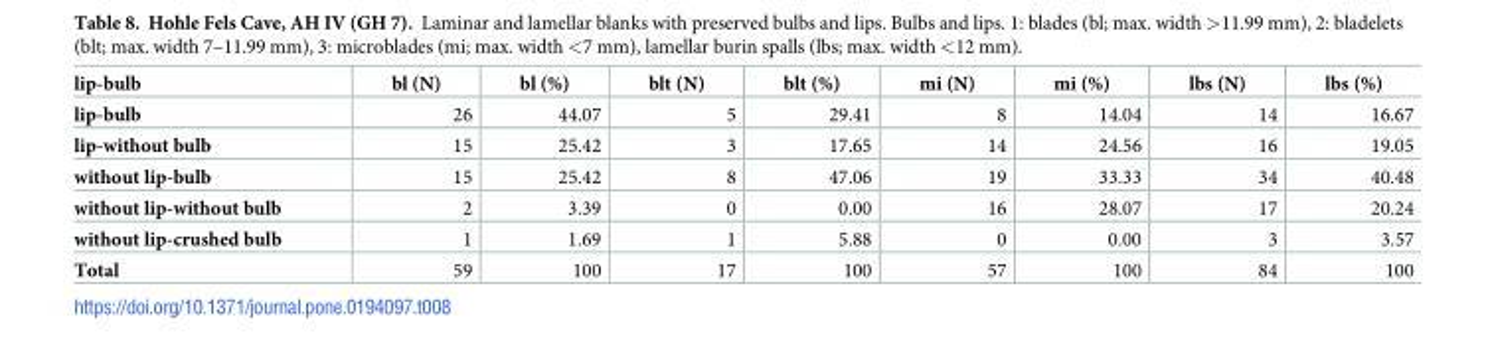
<table><thead><tr><td>lip-bulb</td><td>bl (N)</td><td>bl (%)</td><td>blt (N)</td><td>blt (%)</td><td>mi (N)</td><td>mi (%)</td><td>lbs (N)</td><td>lbs (%)</td></tr></thead><tbody><tr><td>lip-bulb</td><td>26</td><td>44.07</td><td>5</td><td>29.41</td><td>8</td><td>14.04</td><td>14</td><td>16.67</td></tr><tr><td>lip-without bulb</td><td>15</td><td>25.42</td><td>3</td><td>17.65</td><td>14</td><td>24.56</td><td>16</td><td>19.05</td></tr><tr><td>without lip-bulb</td><td>15</td><td>25.42</td><td>8</td><td>47.06</td><td>19</td><td>33.33</td><td>34</td><td>40.48</td></tr><tr><td>without lip-without bulb</td><td>2</td><td>3.39</td><td>0</td><td>0.00</td><td>16</td><td>28.07</td><td>17</td><td>20.24</td></tr><tr><td>without lip-crushed bulb</td><td>1</td><td>1.69</td><td>1</td><td>5.88</td><td>0</td><td>0.00</td><td>3</td><td>3.57</td></tr><tr><td>Total</td><td>59</td><td>100</td><td>17</td><td>100</td><td>57</td><td>100</td><td>84</td><td>100</td></tr></tbody></table>